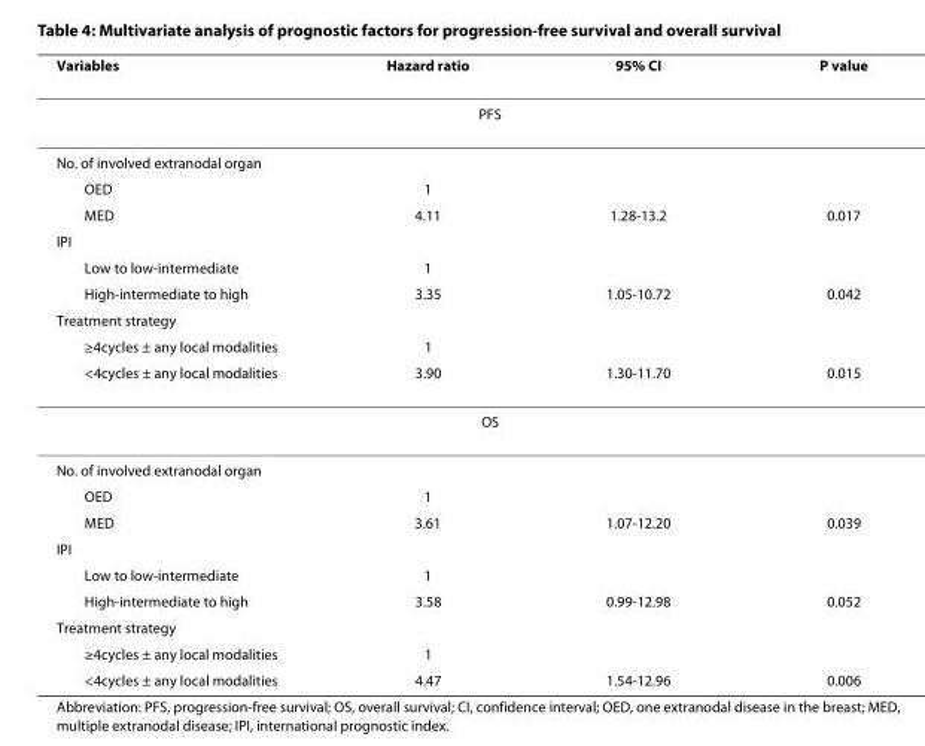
<table><thead><tr><td>Variables</td><td>Hazard ratio</td><td>95% CI</td><td>P value</td></tr></thead><tbody><tr><td colspan="4">PFS</td></tr><tr><td colspan="4">No. of involved extranodal organ</td></tr><tr><td>OED</td><td>1</td><td></td><td></td></tr><tr><td>MED</td><td>4.11</td><td>1.28-13.2</td><td>0.017</td></tr><tr><td colspan="4">IPI</td></tr><tr><td>Low to low-intermediate</td><td>1</td><td></td><td></td></tr><tr><td>High-intermediate to high</td><td>3.35</td><td>1.05-10.72</td><td>0.042</td></tr><tr><td colspan="4">Treatment strategy</td></tr><tr><td>≥4cycles ± any local modalities</td><td>1</td><td></td><td></td></tr><tr><td>&lt;4cycles ± any local modalities</td><td>3.90</td><td>1.30-11.70</td><td>0.015</td></tr><tr><td colspan="4">OS</td></tr><tr><td colspan="4">No. of involved extranodal organ</td></tr><tr><td>OED</td><td>1</td><td></td><td></td></tr><tr><td>MED</td><td>3.61</td><td>1.07-12.20</td><td>0.039</td></tr><tr><td colspan="4">IPI</td></tr><tr><td>Low to low-intermediate</td><td>1</td><td></td><td></td></tr><tr><td>High-intermediate to high</td><td>3.58</td><td>0.99-12.98</td><td>0.052</td></tr><tr><td colspan="4">Treatment strategy</td></tr><tr><td>≥4cycles ± any local modalities</td><td>1</td><td></td><td></td></tr><tr><td>&lt;4cycles ± any local modalities</td><td>4.47</td><td>1.54-12.96</td><td>0.006</td></tr></tbody></table>